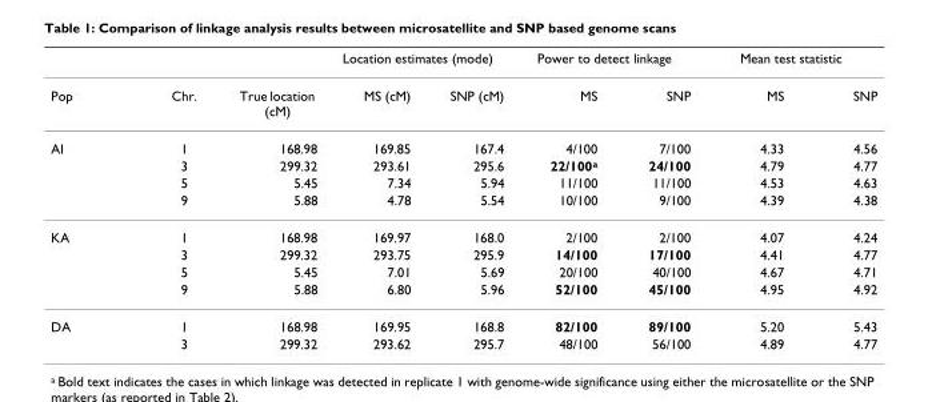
<table><thead><tr><td rowspan="2">Pop</td><td rowspan="2">Chr.</td><td rowspan="2">True location (cM)</td><td colspan="2">Location estimates (mode)</td><td colspan="2">Power to detect linkage</td><td colspan="2">Mean test statistic</td></tr><tr><td>MS (cM)</td><td>SNP (cM)</td><td>MS</td><td>SNP</td><td>MS</td><td>SNP</td></tr></thead><tbody><tr><td rowspan="4">AI</td><td>1</td><td>168.98</td><td>169.85</td><td>167.4</td><td>4/100</td><td>7/100</td><td>4.33</td><td>4.56</td></tr><tr><td>3</td><td>299.32</td><td>293.61</td><td>295.6</td><td>22/100a</td><td>24/100</td><td>4.79</td><td>4.77</td></tr><tr><td>5</td><td>5.45</td><td>7.34</td><td>5.94</td><td>11/100</td><td>11/100</td><td>4.53</td><td>4.63</td></tr><tr><td>9</td><td>5.88</td><td>4.78</td><td>5.54</td><td>10/100</td><td>9/100</td><td>4.39</td><td>4.38</td></tr><tr><td rowspan="4">KA</td><td>1</td><td>168.98</td><td>169.97</td><td>168.0</td><td>2/100</td><td>2/100</td><td>4.07</td><td>4.24</td></tr><tr><td>3</td><td>299.32</td><td>293.75</td><td>295.9</td><td>14/100</td><td>17/100</td><td>4.41</td><td>4.77</td></tr><tr><td>5</td><td>5.45</td><td>7.01</td><td>5.69</td><td>20/100</td><td>40/100</td><td>4.67</td><td>4.71</td></tr><tr><td>9</td><td>5.88</td><td>6.80</td><td>5.96</td><td>52/100</td><td>45/100</td><td>4.95</td><td>4.92</td></tr><tr><td rowspan="2">DA</td><td>1</td><td>168.98</td><td>169.95</td><td>168.8</td><td>82/100</td><td>89/100</td><td>5.20</td><td>5.43</td></tr><tr><td>3</td><td>299.32</td><td>293.62</td><td>295.7</td><td>48/100</td><td>56/100</td><td>4.89</td><td>4.77</td></tr></tbody></table>